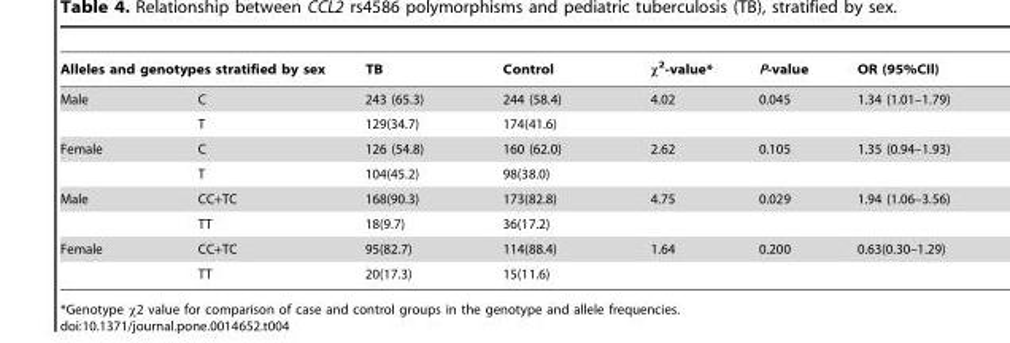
<table><thead><tr><td colspan="2">Alleles and genotypes stratified by sex</td><td rowspan="2">TB 243 (65.3)</td><td rowspan="2">Control 244 (58.4)</td><td rowspan="2">χ<sup>2</sup>-value* 4.02</td><td rowspan="2">P-value 0.045</td><td rowspan="2">OR (95%CIl) 1.34 (1.01–1.79)</td></tr><tr><td>Male</td><td>C</td></tr></thead><tbody><tr><td></td><td>T</td><td>129(34.7)</td><td>174(41.6)</td><td></td><td></td><td></td></tr><tr><td rowspan="2">Female</td><td>C</td><td>126 (54.8)</td><td>160 (62.0)</td><td>2.62</td><td>0.105</td><td>1.35 (0.94–1.93)</td></tr><tr><td>T</td><td>104(45.2)</td><td>98(38.0)</td><td></td><td></td><td></td></tr><tr><td rowspan="2">Male</td><td>CC+TC</td><td>168(90.3)</td><td>173(82.8)</td><td>4.75</td><td>0.029</td><td>1.94 (1.06–3.56)</td></tr><tr><td>TT</td><td>18(9.7)</td><td>36(17.2)</td><td></td><td></td><td></td></tr><tr><td rowspan="2">Female</td><td>CC+TC</td><td>95(82.7)</td><td>114(88.4)</td><td>1.64</td><td>0.200</td><td>0.63(0.30–1.29)</td></tr><tr><td>TT</td><td>20(17.3)</td><td>15(11.6)</td><td></td><td></td><td></td></tr></tbody></table>